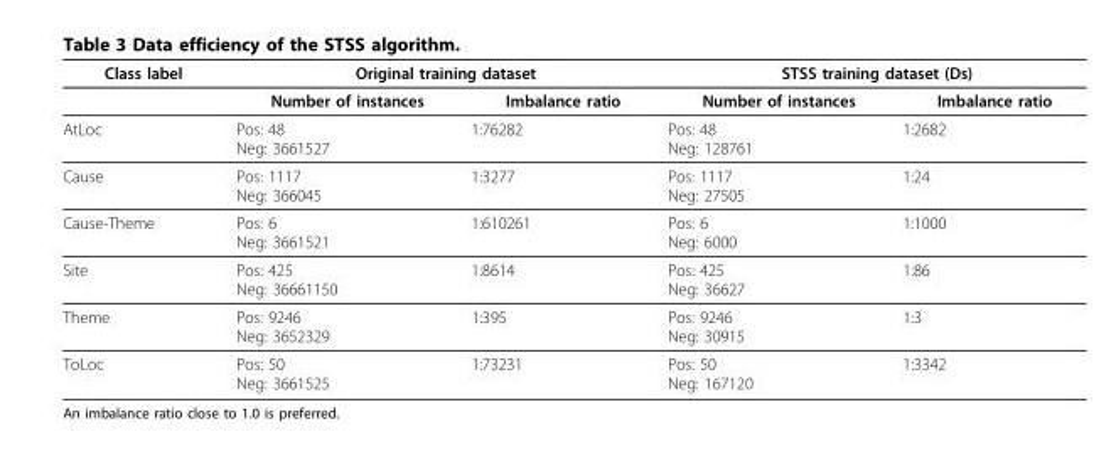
<table><thead><tr><td rowspan="2">Class label</td><td colspan="2">Original training dataset</td><td colspan="2">STSS training dataset (Ds)</td></tr><tr><td>Number of instances</td><td>Imbalance ratio</td><td>Number of instances</td><td>Imbalance ratio</td></tr></thead><tbody><tr><td>AtLoc</td><td>Pos: 48 Neg: 3661527</td><td>1:76282</td><td>Pos: 48 Neg: 128761</td><td>1:2682</td></tr><tr><td>Cause</td><td>Pos: 1117 Neg: 366045</td><td>1:3277</td><td>Pos: 1117 Neg: 27505</td><td>1:24</td></tr><tr><td>Cause-Theme</td><td>Pos: 6 Neg: 3661521</td><td>1:610261</td><td>Pos: 6 Neg: 6000</td><td>1:1000</td></tr><tr><td>Site</td><td>Pos: 425 Neg: 36661150</td><td>1:8614</td><td>Pos: 425 Neg: 36627</td><td>1:86</td></tr><tr><td>Theme</td><td>Pos: 9246 Neg: 3652329</td><td>1:395</td><td>Pos: 9246 Neg: 30915</td><td>1:3</td></tr><tr><td>ToLoc</td><td>Pos: 50 Neg: 3661525</td><td>1:73231</td><td>Pos: 50 Neg: 167120</td><td>1:3342</td></tr></tbody></table>